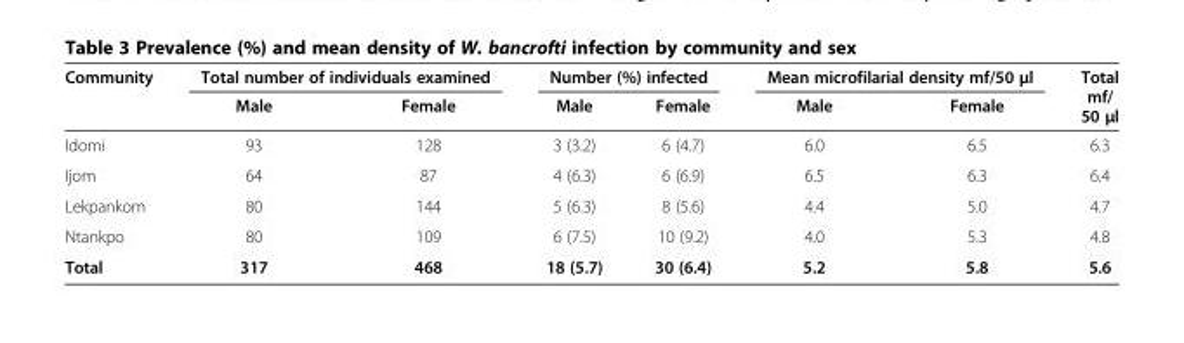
<table><thead><tr><td rowspan="2">Community</td><td colspan="2">Total number of individuals examined</td><td colspan="2">Number (%) infected</td><td colspan="2">Mean microfilarial density mf/50 μl</td><td rowspan="2">Total mf/ 50 μl</td></tr><tr><td>Male</td><td>Female</td><td>Male</td><td>Female</td><td>Male</td><td>Female</td></tr></thead><tbody><tr><td>Idomi</td><td>93</td><td>128</td><td>3 (3.2)</td><td>6 (4.7)</td><td>6.0</td><td>6.5</td><td>6.3</td></tr><tr><td>Ijom</td><td>64</td><td>87</td><td>4 (6.3)</td><td>6 (6.9)</td><td>6.5</td><td>6.3</td><td>6.4</td></tr><tr><td>Lekpankom</td><td>80</td><td>144</td><td>5 (6.3)</td><td>8 (5.6)</td><td>4.4</td><td>5.0</td><td>4.7</td></tr><tr><td>Ntankpo</td><td>80</td><td>109</td><td>6 (7.5)</td><td>10 (9.2)</td><td>4.0</td><td>5.3</td><td>4.8</td></tr><tr><td>Total</td><td>317</td><td>468</td><td>18 (5.7)</td><td>30 (6.4)</td><td>5.2</td><td>5.8</td><td>5.6</td></tr></tbody></table>